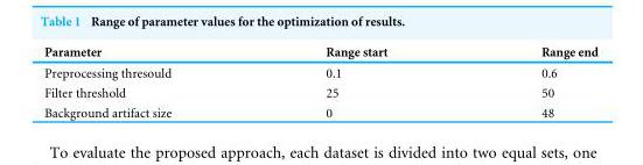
<table><thead><tr><td>Parameter</td><td>Range start</td><td>Range end</td></tr></thead><tbody><tr><td>Preprocessing thresould</td><td>0.1</td><td>0.6</td></tr><tr><td>Filter threshold</td><td>25</td><td>50</td></tr><tr><td>Background artifact size</td><td>0</td><td>48</td></tr></tbody></table>